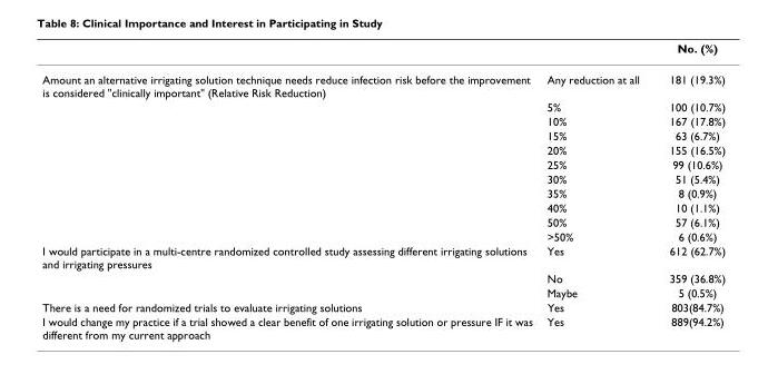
<table><thead><tr><td></td><td></td><td>No. (%)</td></tr></thead><tbody><tr><td rowspan="11">Amount an alternative irrigating solution technique needs reduce infection risk before the improvement is considered &quot;clinically important&quot; (Relative Risk Reduction)</td><td>Any reduction at all</td><td>181 (19.3%)</td></tr><tr><td>5%</td><td>100 (10.7%)</td></tr><tr><td>10%</td><td>167 (17.8%)</td></tr><tr><td>15%</td><td>63 (6.7%)</td></tr><tr><td>20%</td><td>155 (16.5%)</td></tr><tr><td>25%</td><td>99 (10.6%)</td></tr><tr><td>30%</td><td>51 (5.4%)</td></tr><tr><td>35%</td><td>8 (0.9%)</td></tr><tr><td>40%</td><td>10 (1.1%)</td></tr><tr><td>50%</td><td>57 (6.1%)</td></tr><tr><td>&gt;50%</td><td>6 (0.6%)</td></tr><tr><td rowspan="3">I would participate in a multi-centre randomized controlled study assessing different irrigating solutions and irrigating pressures</td><td>Yes</td><td>612 (62.7%)</td></tr><tr><td>No</td><td>359 (36.8%)</td></tr><tr><td>Maybe</td><td>5 (0.5%)</td></tr><tr><td>There is a need for randomized trials to evaluate irrigating solutions</td><td>Yes</td><td>803(84.7%)</td></tr><tr><td>I would change my practice if a trial showed a clear benefit of one irrigating solution or pressure IF it was different from my current approach</td><td>Yes</td><td>889(94.2%)</td></tr></tbody></table>